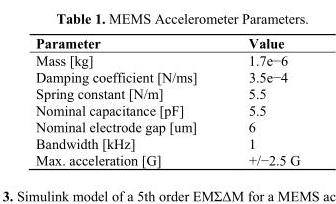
<table><thead><tr><td>Parameter</td><td>Value</td></tr></thead><tbody><tr><td>Mass [kg]</td><td>1.7e−6</td></tr><tr><td>Damping coefficient [N/ms]</td><td>3.5e−4</td></tr><tr><td>Spring constant [N/m]</td><td>5.5</td></tr><tr><td>Nominal capacitance [pF]</td><td>5.5</td></tr><tr><td>Nominal electrode gap [um]</td><td>6</td></tr><tr><td>Bandwidth [kHz]</td><td>1</td></tr><tr><td>Max. acceleration [G]</td><td>+/−2.5 G</td></tr></tbody></table>